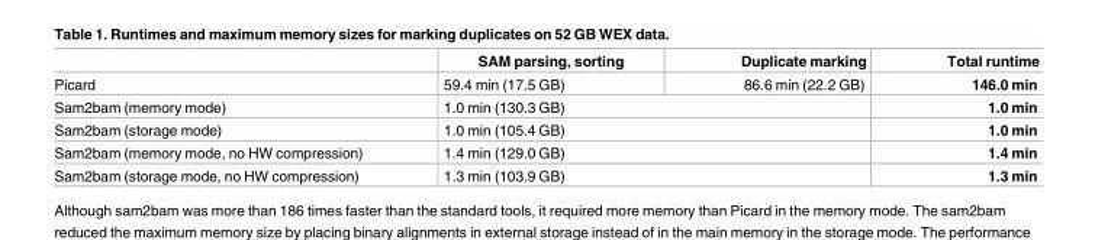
<table><thead><tr><td></td><td>SAM parsing, sorting</td><td>Duplicate marking</td><td>Total runtime</td></tr></thead><tbody><tr><td>Picard</td><td>59.4 min (17.5 GB)</td><td>86.6 min (22.2 GB)</td><td>146.0 min</td></tr><tr><td>Sam2bam (memory mode)</td><td colspan="2">1.0 min (130.3 GB)</td><td>1.0 min</td></tr><tr><td>Sam2bam (storage mode)</td><td colspan="2">1.0 min (105.4 GB)</td><td>1.0 min</td></tr><tr><td>Sam2bam (memory mode, no HW compression)</td><td colspan="2">1.4 min (129.0 GB)</td><td>1.4 min</td></tr><tr><td>Sam2bam (storage mode, no HW compression)</td><td colspan="2">1.3 min (103.9 GB)</td><td>1.3 min</td></tr></tbody></table>